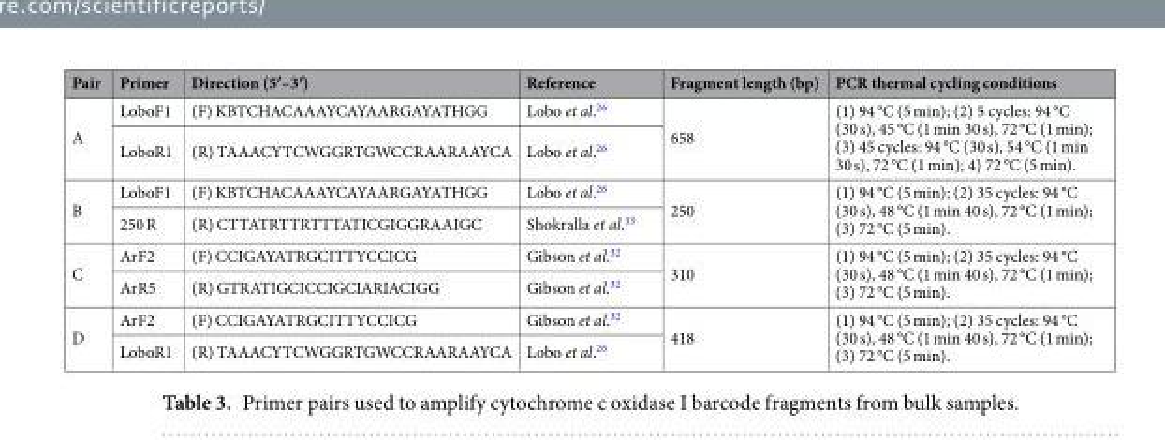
<table><thead><tr><td>Pair</td><td>Primer</td><td>Direction (5′–3′)</td><td>Reference</td><td>Fragment length (bp)</td><td>PCR thermal cycling conditions</td></tr></thead><tbody><tr><td rowspan="2">A</td><td>LoboF1</td><td>(F) KBTCHACAAAYCAYAARGAYATHGG</td><td>Lobo et al.<sup>26</sup></td><td rowspan="2">658</td><td rowspan="2">(1) 94 °C (5 min); (2) 5 cycles: 94 °C (30 s), 45 °C (1 min 30 s), 72 °C (1 min); (3) 45 cycles: 94 °C (30 s), 54 °C (1 min 30 s), 72 °C (1 min); 4) 72 °C (5 min).</td></tr><tr><td>LoboR1</td><td>(R) TAAACYTCWGGRTGWCCRAARAAYCA</td><td>Lobo et al.<sup>26</sup></td></tr><tr><td rowspan="2">B</td><td>LoboF1</td><td>(F) KBTCHACAAAYCAYAARGAYATHGG</td><td>Lobo et al.<sup>26</sup></td><td rowspan="2">250</td><td rowspan="2">(1) 94 °C (5 min); (2) 35 cycles: 94 °C (30 s), 48 °C (1 min 40 s), 72 °C (1 min); (3) 72 °C (5 min).</td></tr><tr><td>250 R</td><td>(R) CTTATRTTRTTTATICGIGGRAAIGC</td><td>Shokralla et al.<sup>33</sup></td></tr><tr><td rowspan="2">C</td><td>ArF2</td><td>(F) CCIGAYATRGCITTYCCICG</td><td>Gibson et al.<sup>32</sup></td><td rowspan="2">310</td><td rowspan="2">(1) 94 °C (5 min); (2) 35 cycles: 94 °C (30 s), 48 °C (1 min 40 s), 72 °C (1 min); (3) 72 °C (5 min).</td></tr><tr><td>ArR5</td><td>(R) GTRATIGCICCIGCIARIACIGG</td><td>Gibson et al.<sup>32</sup></td></tr><tr><td rowspan="2">D</td><td>ArF2</td><td>(F) CCIGAYATRGCITTYCCICG</td><td>Gibson et al.<sup>32</sup></td><td rowspan="2">418</td><td rowspan="2">(1) 94 °C (5 min); (2) 35 cycles: 94 °C (30 s), 48 °C (1 min 40 s), 72 °C (1 min); (3) 72 °C (5 min).</td></tr><tr><td>LoboR1</td><td>(R) TAAACYTCWGGRTGWCCRAARAAYCA</td><td>Lobo et al.<sup>26</sup></td></tr></tbody></table>